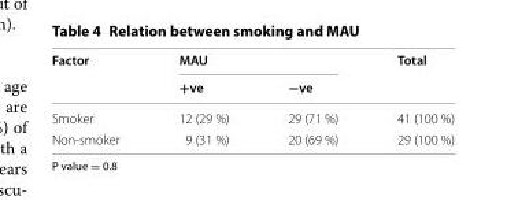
<table><thead><tr><td rowspan="2">Factor</td><td colspan="2">MAU</td><td rowspan="2">Total</td></tr><tr><td>+ve</td><td>−ve</td></tr></thead><tbody><tr><td>Smoker</td><td>12 (29 %)</td><td>29 (71 %)</td><td>41 (100 %)</td></tr><tr><td>Non‑smoker</td><td>9 (31 %)</td><td>20 (69 %)</td><td>29 (100 %)</td></tr></tbody></table>